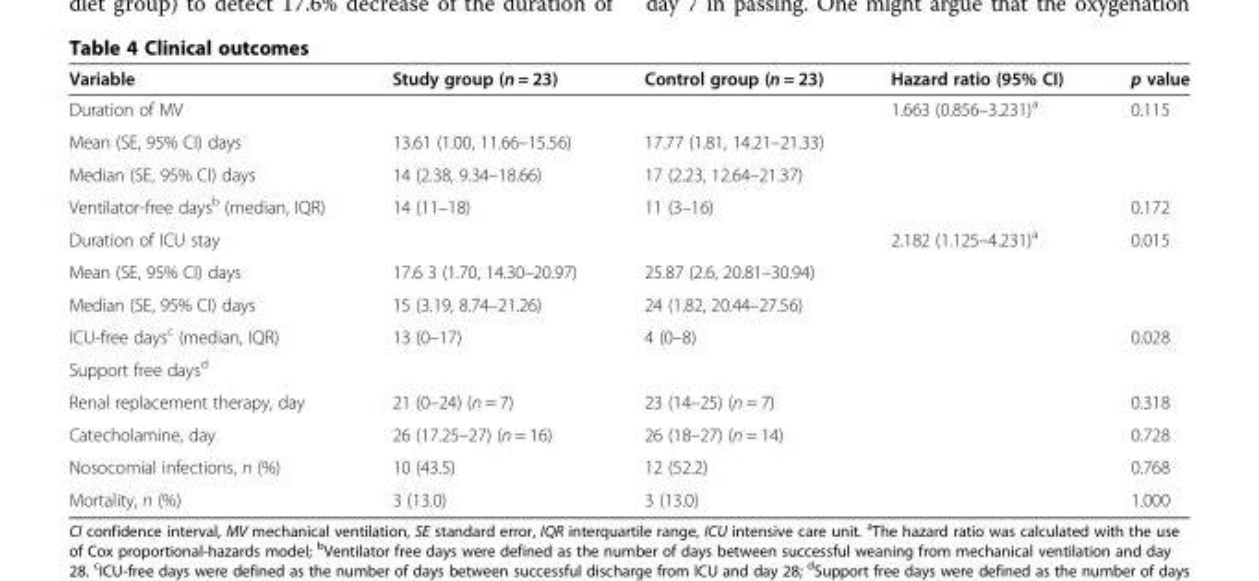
<table><thead><tr><td>Variable</td><td>Study group (n = 23)</td><td>Control group (n = 23)</td><td>Hazard ratio (95% CI)</td><td>p value</td></tr></thead><tbody><tr><td>Duration of MV</td><td></td><td></td><td>1.663 (0.856–3.231)<sup>a</sup></td><td>0.115</td></tr><tr><td>Mean (SE, 95% CI) days</td><td>13.61 (1.00, 11.66–15.56)</td><td>17.77 (1.81, 14.21–21.33)</td><td></td><td></td></tr><tr><td>Median (SE, 95% CI) days</td><td>14 (2.38, 9.34–18.66)</td><td>17 (2.23, 12.64–21.37)</td><td></td><td></td></tr><tr><td>Ventilator-free days<sup>b</sup> (median, IQR)</td><td>14 (11–18)</td><td>11 (3–16)</td><td></td><td>0.172</td></tr><tr><td>Duration of ICU stay</td><td></td><td></td><td>2.182 (1.125–4.231)<sup>a</sup></td><td>0.015</td></tr><tr><td>Mean (SE, 95% CI) days</td><td>17.6 3 (1.70, 14.30–20.97)</td><td>25.87 (2.6, 20.81–30.94)</td><td></td><td></td></tr><tr><td>Median (SE, 95% CI) days</td><td>15 (3.19, 8.74–21.26)</td><td>24 (1.82, 20.44–27.56)</td><td></td><td></td></tr><tr><td>ICU-free days<sup>c</sup> (median, IQR)</td><td>13 (0–17)</td><td>4 (0–8)</td><td></td><td>0.028</td></tr><tr><td colspan="5">Support free days<sup>d</sup></td></tr><tr><td>Renal replacement therapy, day</td><td>21 (0–24) (n = 7)</td><td>23 (14–25) (n = 7)</td><td></td><td>0.318</td></tr><tr><td>Catecholamine, day</td><td>26 (17.25–27) (n = 16)</td><td>26 (18–27) (n = 14)</td><td></td><td>0.728</td></tr><tr><td>Nosocomial infections, n (%)</td><td>10 (43.5)</td><td>12 (52.2)</td><td></td><td>0.768</td></tr><tr><td>Mortality, n (%)</td><td>3 (13.0)</td><td>3 (13.0)</td><td></td><td>1.000</td></tr></tbody></table>